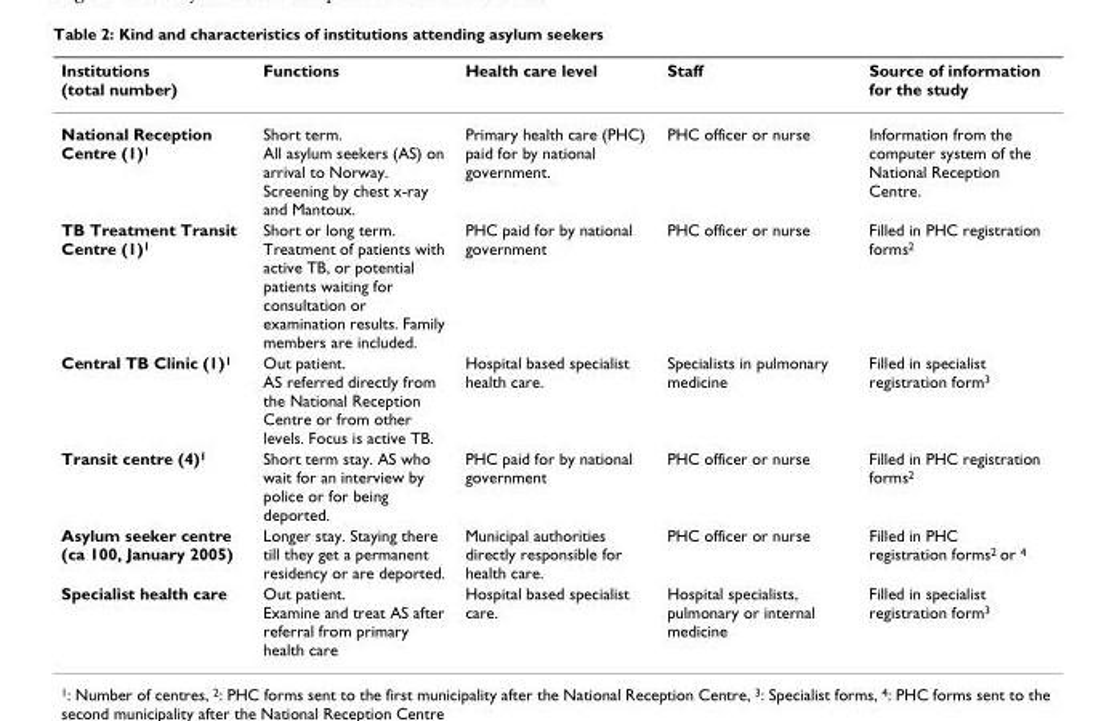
<table><thead><tr><td>Institutions (total number)</td><td>Functions</td><td>Health care level</td><td>Staff</td><td>Source of information for the study</td></tr></thead><tbody><tr><td>National Reception Centre (1)<sup>1</sup></td><td>Short term. All asylum seekers (AS) on arrival to Norway. Screening by chest x-ray and Mantoux.</td><td>Primary health care (PHC) paid for by national government.</td><td>PHC officer or nurse</td><td>Information from the computer system of the National Reception Centre.</td></tr><tr><td>TB Treatment Transit Centre (1)<sup>1</sup></td><td>Short or long term. Treatment of patients with active TB, or potential patients waiting for consultation or examination results. Family members are included.</td><td>PHC paid for by national government</td><td>PHC officer or nurse</td><td>Filled in PHC registration forms<sup>2</sup></td></tr><tr><td>Central TB Clinic (1)<sup>1</sup></td><td>Out patient. AS referred directly from the National Reception Centre or from other levels. Focus is active TB.</td><td>Hospital based specialist health care.</td><td>Specialists in pulmonary medicine</td><td>Filled in specialist registration form<sup>3</sup></td></tr><tr><td>Transit centre (4)<sup>1</sup></td><td>Short term stay. AS who wait for an interview by police or for being deported.</td><td>PHC paid for by national government</td><td>PHC officer or nurse</td><td>Filled in PHC registration forms<sup>2</sup></td></tr><tr><td>Asylum seeker centre (ca 100, January 2005)</td><td>Longer stay. Staying there till they get a permanent residency or are deported.</td><td>Municipal authorities directly responsible for health care.</td><td>PHC officer or nurse</td><td>Filled in PHC registration forms<sup>2</sup> or <sup>4</sup></td></tr><tr><td>Specialist health care</td><td>Out patient. Examine and treat AS after referral from primary health care</td><td>Hospital based specialist care.</td><td>Hospital specialists, pulmonary or internal medicine</td><td>Filled in specialist registration form<sup>3</sup></td></tr></tbody></table>